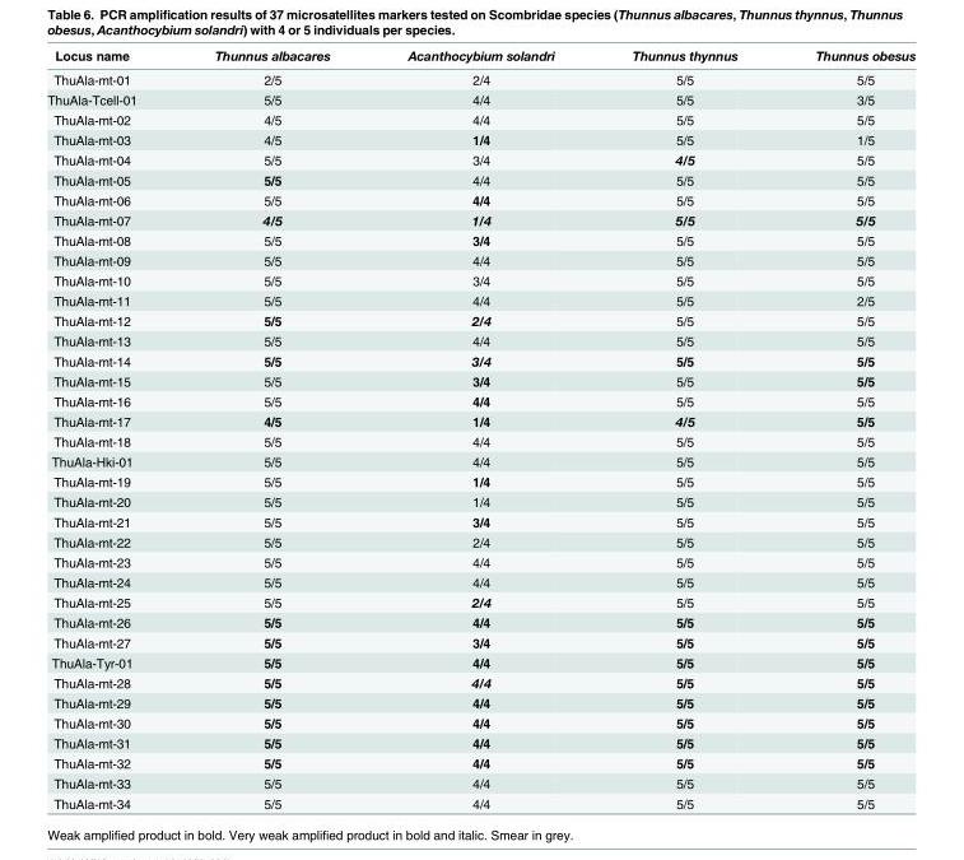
<table><thead><tr><td>Locus name</td><td>Thunnus albacares</td><td>Acanthocybium solandri</td><td>Thunnus thynnus</td><td>Thunnus obesus</td></tr></thead><tbody><tr><td>ThuAla-mt-01</td><td>2/5</td><td>2/4</td><td>5/5</td><td>5/5</td></tr><tr><td>ThuAla-Tcell-01</td><td>5/5</td><td>4/4</td><td>5/5</td><td>3/5</td></tr><tr><td>ThuAla-mt-02</td><td>4/5</td><td>4/4</td><td>5/5</td><td>5/5</td></tr><tr><td>ThuAla-mt-03</td><td>4/5</td><td>1/4</td><td>5/5</td><td>1/5</td></tr><tr><td>ThuAla-mt-04</td><td>5/5</td><td>3/4</td><td>4/5</td><td>5/5</td></tr><tr><td>ThuAla-mt-05</td><td>5/5</td><td>4/4</td><td>5/5</td><td>5/5</td></tr><tr><td>ThuAla-mt-06</td><td>5/5</td><td>4/4</td><td>5/5</td><td>5/5</td></tr><tr><td>ThuAla-mt-07</td><td>4/5</td><td>1/4</td><td>5/5</td><td>5/5</td></tr><tr><td>ThuAla-mt-08</td><td>5/5</td><td>3/4</td><td>5/5</td><td>5/5</td></tr><tr><td>ThuAla-mt-09</td><td>5/5</td><td>4/4</td><td>5/5</td><td>5/5</td></tr><tr><td>ThuAla-mt-10</td><td>5/5</td><td>3/4</td><td>5/5</td><td>5/5</td></tr><tr><td>ThuAla-mt-11</td><td>5/5</td><td>4/4</td><td>5/5</td><td>2/5</td></tr><tr><td>ThuAla-mt-12</td><td>5/5</td><td>2/4</td><td>5/5</td><td>5/5</td></tr><tr><td>ThuAla-mt-13</td><td>5/5</td><td>4/4</td><td>5/5</td><td>5/5</td></tr><tr><td>ThuAla-mt-14</td><td>5/5</td><td>3/4</td><td>5/5</td><td>5/5</td></tr><tr><td>ThuAla-mt-15</td><td>5/5</td><td>3/4</td><td>5/5</td><td>5/5</td></tr><tr><td>ThuAla-mt-16</td><td>5/5</td><td>4/4</td><td>5/5</td><td>5/5</td></tr><tr><td>ThuAla-mt-17</td><td>4/5</td><td>1/4</td><td>4/5</td><td>5/5</td></tr><tr><td>ThuAla-mt-18</td><td>5/5</td><td>4/4</td><td>5/5</td><td>5/5</td></tr><tr><td>ThuAla-Hki-01</td><td>5/5</td><td>4/4</td><td>5/5</td><td>5/5</td></tr><tr><td>ThuAla-mt-19</td><td>5/5</td><td>1/4</td><td>5/5</td><td>5/5</td></tr><tr><td>ThuAla-mt-20</td><td>5/5</td><td>1/4</td><td>5/5</td><td>5/5</td></tr><tr><td>ThuAla-mt-21</td><td>5/5</td><td>3/4</td><td>5/5</td><td>5/5</td></tr><tr><td>ThuAla-mt-22</td><td>5/5</td><td>2/4</td><td>5/5</td><td>5/5</td></tr><tr><td>ThuAla-mt-23</td><td>5/5</td><td>4/4</td><td>5/5</td><td>5/5</td></tr><tr><td>ThuAla-mt-24</td><td>5/5</td><td>4/4</td><td>5/5</td><td>5/5</td></tr><tr><td>ThuAla-mt-25</td><td>5/5</td><td>2/4</td><td>5/5</td><td>5/5</td></tr><tr><td>ThuAla-mt-26</td><td>5/5</td><td>4/4</td><td>5/5</td><td>5/5</td></tr><tr><td>ThuAla-mt-27</td><td>5/5</td><td>3/4</td><td>5/5</td><td>5/5</td></tr><tr><td>ThuAla-Tyr-01</td><td>5/5</td><td>4/4</td><td>5/5</td><td>5/5</td></tr><tr><td>ThuAla-mt-28</td><td>5/5</td><td>4/4</td><td>5/5</td><td>5/5</td></tr><tr><td>ThuAla-mt-29</td><td>5/5</td><td>4/4</td><td>5/5</td><td>5/5</td></tr><tr><td>ThuAla-mt-30</td><td>5/5</td><td>4/4</td><td>5/5</td><td>5/5</td></tr><tr><td>ThuAla-mt-31</td><td>5/5</td><td>4/4</td><td>5/5</td><td>5/5</td></tr><tr><td>ThuAla-mt-32</td><td>5/5</td><td>4/4</td><td>5/5</td><td>5/5</td></tr><tr><td>ThuAla-mt-33</td><td>5/5</td><td>4/4</td><td>5/5</td><td>5/5</td></tr><tr><td>ThuAla-mt-34</td><td>5/5</td><td>4/4</td><td>5/5</td><td>5/5</td></tr></tbody></table>